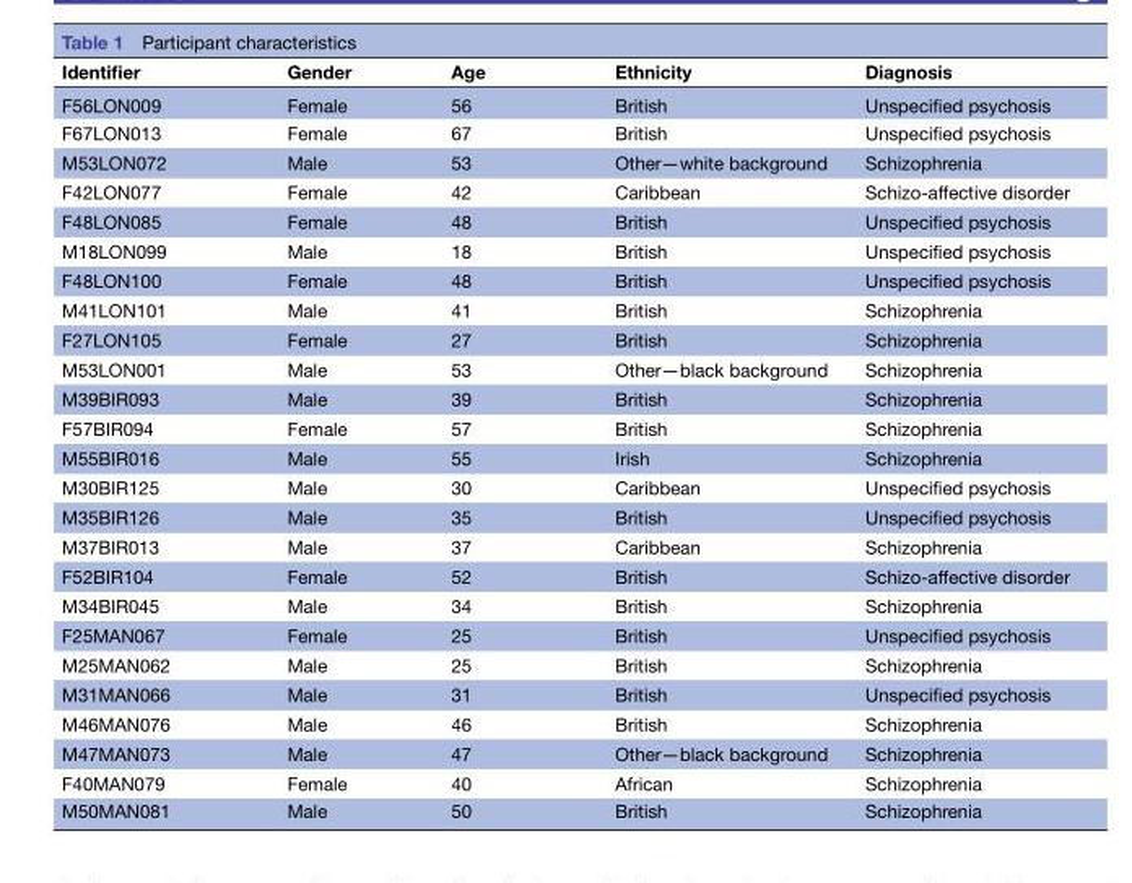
<table><thead><tr><td>Identifier</td><td>Gender</td><td>Age</td><td>Ethnicity</td><td>Diagnosis</td></tr></thead><tbody><tr><td>F56LON009</td><td>Female</td><td>56</td><td>British</td><td>Unspecified psychosis</td></tr><tr><td>F67LON013</td><td>Female</td><td>67</td><td>British</td><td>Unspecified psychosis</td></tr><tr><td>M53LON072</td><td>Male</td><td>53</td><td>Other—white background</td><td>Schizophrenia</td></tr><tr><td>F42LON077</td><td>Female</td><td>42</td><td>Caribbean</td><td>Schizo-affective disorder</td></tr><tr><td>F48LON085</td><td>Female</td><td>48</td><td>British</td><td>Unspecified psychosis</td></tr><tr><td>M18LON099</td><td>Male</td><td>18</td><td>British</td><td>Unspecified psychosis</td></tr><tr><td>F48LON100</td><td>Female</td><td>48</td><td>British</td><td>Unspecified psychosis</td></tr><tr><td>M41LON101</td><td>Male</td><td>41</td><td>British</td><td>Schizophrenia</td></tr><tr><td>F27LON105</td><td>Female</td><td>27</td><td>British</td><td>Schizophrenia</td></tr><tr><td>M53LON001</td><td>Male</td><td>53</td><td>Other—black background</td><td>Schizophrenia</td></tr><tr><td>M39BIR093</td><td>Male</td><td>39</td><td>British</td><td>Schizophrenia</td></tr><tr><td>F57BIR094</td><td>Female</td><td>57</td><td>British</td><td>Schizophrenia</td></tr><tr><td>M55BIR016</td><td>Male</td><td>55</td><td>Irish</td><td>Schizophrenia</td></tr><tr><td>M30BIR125</td><td>Male</td><td>30</td><td>Caribbean</td><td>Unspecified psychosis</td></tr><tr><td>M35BIR126</td><td>Male</td><td>35</td><td>British</td><td>Unspecified psychosis</td></tr><tr><td>M37BIR013</td><td>Male</td><td>37</td><td>Caribbean</td><td>Schizophrenia</td></tr><tr><td>F52BIR104</td><td>Female</td><td>52</td><td>British</td><td>Schizo-affective disorder</td></tr><tr><td>M34BIR045</td><td>Male</td><td>34</td><td>British</td><td>Schizophrenia</td></tr><tr><td>F25MAN067</td><td>Female</td><td>25</td><td>British</td><td>Unspecified psychosis</td></tr><tr><td>M25MAN062</td><td>Male</td><td>25</td><td>British</td><td>Schizophrenia</td></tr><tr><td>M31MAN066</td><td>Male</td><td>31</td><td>British</td><td>Unspecified psychosis</td></tr><tr><td>M46MAN076</td><td>Male</td><td>46</td><td>British</td><td>Schizophrenia</td></tr><tr><td>M47MAN073</td><td>Male</td><td>47</td><td>Other—black background</td><td>Schizophrenia</td></tr><tr><td>F40MAN079</td><td>Female</td><td>40</td><td>African</td><td>Schizophrenia</td></tr><tr><td>M50MAN081</td><td>Male</td><td>50</td><td>British</td><td>Schizophrenia</td></tr></tbody></table>